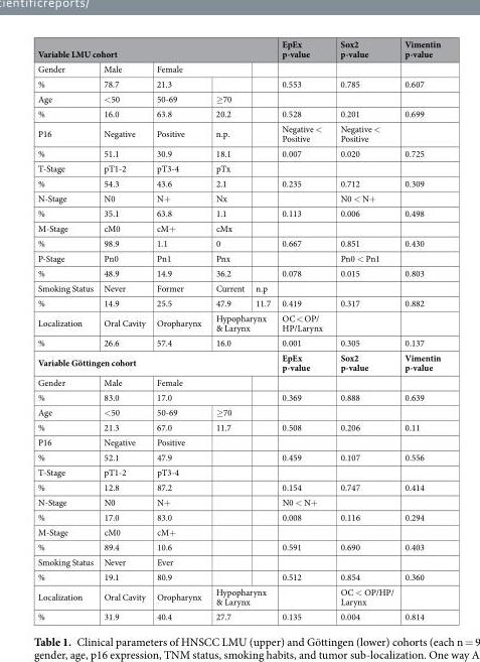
<table><thead><tr><td colspan="5">Variable LMU cohort</td><td rowspan="3">EpEx p-value 0.553</td><td rowspan="3">Sox2 p-value 0.785</td><td rowspan="3">Vimentin p-value 0.607</td></tr><tr><td rowspan="2">Gender %</td><td rowspan="2">Male 78.7</td><td colspan="2">Female</td><td rowspan="2"></td></tr><tr><td>21.3</td><td></td></tr></thead><tbody><tr><td>Age</td><td>&lt;50</td><td>50-69</td><td>≥70</td><td></td><td></td><td></td><td></td></tr><tr><td>%</td><td>16.0</td><td>63.8</td><td>20.2</td><td></td><td>0.528</td><td>0.201</td><td>0.699</td></tr><tr><td>P16</td><td>Negative</td><td>Positive</td><td>n.p.</td><td></td><td>Negative &lt; Positive</td><td>Negative &lt; Positive</td><td></td></tr><tr><td>%</td><td>51.1</td><td>30.9</td><td>18.1</td><td></td><td>0.007</td><td>0.020</td><td>0.725</td></tr><tr><td>T-Stage</td><td>pT1-2</td><td>pT3-4</td><td>pTx</td><td></td><td></td><td></td><td></td></tr><tr><td>%</td><td>54.3</td><td>43.6</td><td>2.1</td><td></td><td>0.235</td><td>0.712</td><td>0.309</td></tr><tr><td>N-Stage</td><td>N0</td><td>N+</td><td>Nx</td><td></td><td></td><td>N0 &lt; N+</td><td></td></tr><tr><td>%</td><td>35.1</td><td>63.8</td><td>1.1</td><td></td><td>0.113</td><td>0.006</td><td>0.498</td></tr><tr><td>M-Stage</td><td>cM0</td><td>cM+</td><td>cMx</td><td></td><td></td><td></td><td></td></tr><tr><td>%</td><td>98.9</td><td>1.1</td><td>0</td><td></td><td>0.667</td><td>0.851</td><td>0.430</td></tr><tr><td>P-Stage</td><td>Pn0</td><td>Pn1</td><td>Pnx</td><td></td><td></td><td>Pn0 &lt; Pn1</td><td></td></tr><tr><td>%</td><td>48.9</td><td>14.9</td><td>36.2</td><td></td><td>0.078</td><td>0.015</td><td>0.803</td></tr><tr><td>Smoking Status</td><td>Never</td><td>Former</td><td>Current</td><td>n.p</td><td></td><td></td><td></td></tr><tr><td>%</td><td>14.9</td><td>25.5</td><td>47.9</td><td>11.7</td><td>0.419</td><td>0.317</td><td>0.882</td></tr><tr><td>Localization</td><td>Oral Cavity</td><td>Oropharynx</td><td colspan="2">Hypopharynx &amp; Larynx</td><td>OC &lt; OP/ HP/Larynx</td><td></td><td></td></tr><tr><td>%</td><td>26.6</td><td>57.4</td><td colspan="2">16.0</td><td>0.001</td><td>0.305</td><td>0.137</td></tr><tr><td colspan="5">Variable Göttingen cohort</td><td>EpEx p-value</td><td>Sox2 p-value</td><td>Vimentin p-value</td></tr><tr><td>Gender</td><td>Male</td><td colspan="2">Female</td><td></td><td></td><td></td><td></td></tr><tr><td>%</td><td>83.0</td><td colspan="2">17.0</td><td></td><td>0.369</td><td>0.888</td><td>0.639</td></tr><tr><td>Age</td><td>&lt;50</td><td>50-69</td><td>≥70</td><td></td><td></td><td></td><td></td></tr><tr><td>%</td><td>21.3</td><td>67.0</td><td>11.7</td><td></td><td>0.508</td><td>0.206</td><td>0.11</td></tr><tr><td>P16</td><td>Negative</td><td>Positive</td><td></td><td></td><td></td><td></td><td></td></tr><tr><td>%</td><td>52.1</td><td>47.9</td><td></td><td></td><td>0.459</td><td>0.107</td><td>0.556</td></tr><tr><td>T-Stage</td><td>pT1-2</td><td>pT3-4</td><td></td><td></td><td></td><td></td><td></td></tr><tr><td>%</td><td>12.8</td><td>87.2</td><td></td><td></td><td>0.154</td><td>0.747</td><td>0.414</td></tr><tr><td>N-Stage</td><td>N0</td><td>N+</td><td></td><td></td><td>N0 &lt; N+</td><td></td><td></td></tr><tr><td>%</td><td>17.0</td><td>83.0</td><td></td><td></td><td>0.008</td><td>0.116</td><td>0.294</td></tr><tr><td>M-Stage</td><td>cM0</td><td>cM+</td><td></td><td></td><td></td><td></td><td></td></tr><tr><td>%</td><td>89.4</td><td>10.6</td><td></td><td></td><td>0.591</td><td>0.690</td><td>0.403</td></tr><tr><td>Smoking Status</td><td>Never</td><td>Ever</td><td></td><td></td><td></td><td></td><td></td></tr><tr><td>%</td><td>19.1</td><td>80.9</td><td></td><td></td><td>0.512</td><td>0.854</td><td>0.360</td></tr><tr><td>Localization</td><td>Oral Cavity</td><td>Oropharynx</td><td colspan="2">Hypopharynx &amp; Larynx</td><td></td><td>OC &lt; OP/HP/ Larynx</td><td></td></tr><tr><td>%</td><td>31.9</td><td>40.4</td><td colspan="2">27.7</td><td>0.135</td><td>0.004</td><td>0.814</td></tr></tbody></table>